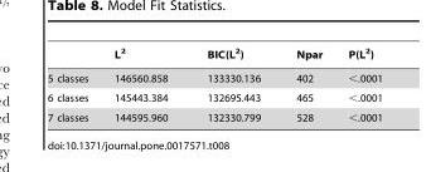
<table><thead><tr><td></td><td>L<sup>2</sup></td><td>BIC(L<sup>2</sup>)</td><td>Npar</td><td>P(L<sup>2</sup>)</td></tr></thead><tbody><tr><td>5 classes</td><td>146560.858</td><td>133330.136</td><td>402</td><td>&lt;.0001</td></tr><tr><td>6 classes</td><td>145443.384</td><td>132695.443</td><td>465</td><td>&lt;.0001</td></tr><tr><td>7 classes</td><td>144595.960</td><td>132330.799</td><td>528</td><td>&lt;.0001</td></tr></tbody></table>